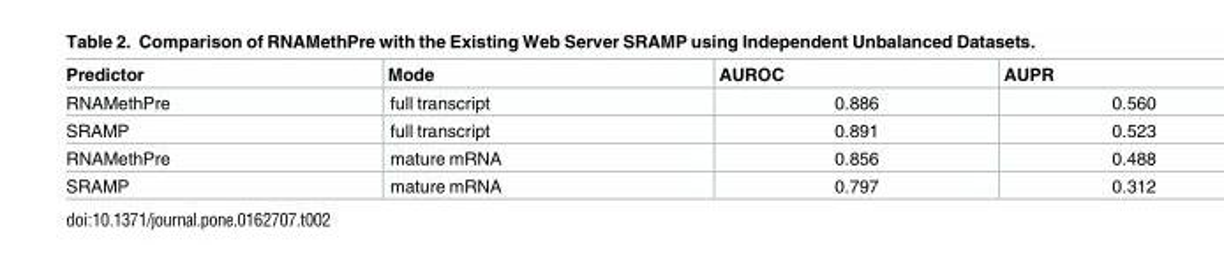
<table><thead><tr><td>Predictor</td><td>Mode</td><td>AUROC</td><td>AUPR</td></tr></thead><tbody><tr><td>RNAMethPre</td><td>full transcript</td><td>0.886</td><td>0.560</td></tr><tr><td>SRAMP</td><td>full transcript</td><td>0.891</td><td>0.523</td></tr><tr><td>RNAMethPre</td><td>mature mRNA</td><td>0.856</td><td>0.488</td></tr><tr><td>SRAMP</td><td>mature mRNA</td><td>0.797</td><td>0.312</td></tr></tbody></table>